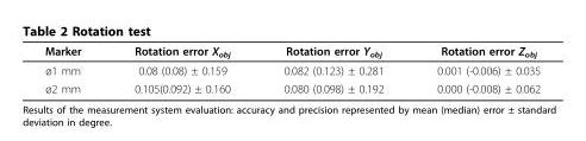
<table><thead><tr><td>Marker</td><td>Rotation error X<sub>obj</sub></td><td>Rotation error Y<sub>obj</sub></td><td>Rotation error Z<sub>obj</sub></td></tr></thead><tbody><tr><td>ø1 mm</td><td>0.08 (0.08) ± 0.159</td><td>0.082 (0.123) ± 0.281</td><td>0.001 (-0.006) ± 0.035</td></tr><tr><td>ø2 mm</td><td>0.105(0.092) ± 0.160</td><td>0.080 (0.098) ± 0.192</td><td>0.000 (-0.008) ± 0.062</td></tr></tbody></table>